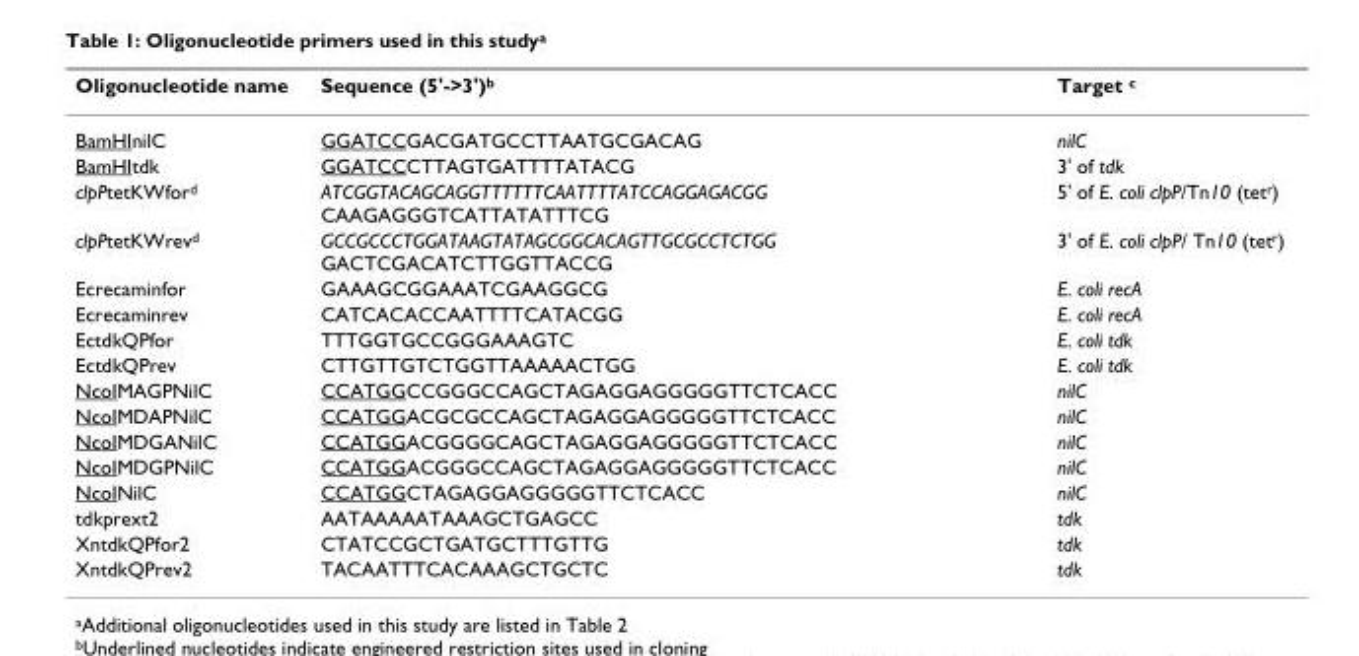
<table><thead><tr><td>Oligonucleotide name</td><td>Sequence (5&#x27;-&gt;3&#x27;)<sup>b</sup></td><td>Target <sup>c</sup></td></tr></thead><tbody><tr><td>BamHInilC</td><td>GGATCCGACGATGCCTTAATGCGACAG</td><td>nilC</td></tr><tr><td>BamHItdk</td><td>GGATCCCTTAGTGATTTTATACG</td><td>3&#x27; of tdk</td></tr><tr><td>clpPtetKWfor<sup>d</sup></td><td>ATCGGTACAGCAGGTTTTTTCAATTTTATCCAGGAGACGG CAAGAGGGTCATTATATTTCG</td><td>5&#x27; of E. coli clpP/Tn10 (tet<sup>r</sup>)</td></tr><tr><td>clpPtetKWrev<sup>d</sup></td><td>GCCGCCCTGGATAAGTATAGCGGCACAGTTGCGCCTCTGG GACTCGACATCTTGGTTACCG</td><td>3&#x27; of E. coli clpP/ Tn10 (tet<sup>r</sup>)</td></tr><tr><td>Ecrecaminfor</td><td>GAAAGCGGAAATCGAAGGCG</td><td>E. coli recA</td></tr><tr><td>Ecrecaminrev</td><td>CATCACACCAATTTTCATACGG</td><td>E. coli recA</td></tr><tr><td>EctdkQPfor</td><td>TTTGGTGCCGGGAAAGTC</td><td>E. coli tdk</td></tr><tr><td>EctdkQPrev</td><td>CTTGTTGTCTGGTTAAAAACTGG</td><td>E. coli tdk</td></tr><tr><td>NcoIMAGPNilC</td><td>CCATGGCCGGGCCAGCTAGAGGAGGGGGTTCTCACC</td><td>nilC</td></tr><tr><td>NcoIMDAPNilC</td><td>CCATGGACGCGCCAGCTAGAGGAGGGGGTTCTCACC</td><td>nilC</td></tr><tr><td>NcoIMDGANilC</td><td>CCATGGACGGGGCAGCTAGAGGAGGGGGTTCTCACC</td><td>nilC</td></tr><tr><td>NcoIMDGPNilC</td><td>CCATGGACGGGCCAGCTAGAGGAGGGGGTTCTCACC</td><td>nilC</td></tr><tr><td>NcoINilC</td><td>CCATGGCTAGAGGAGGGGGTTCTCACC</td><td>nilC</td></tr><tr><td>tdkprext2</td><td>AATAAAAATAAAGCTGAGCC</td><td>tdk</td></tr><tr><td>XntdkQPfor2</td><td>CTATCCGCTGATGCTTTGTTG</td><td>tdk</td></tr><tr><td>XntdkQPrev2</td><td>TACAATTTCACAAAGCTGCTC</td><td>tdk</td></tr></tbody></table>